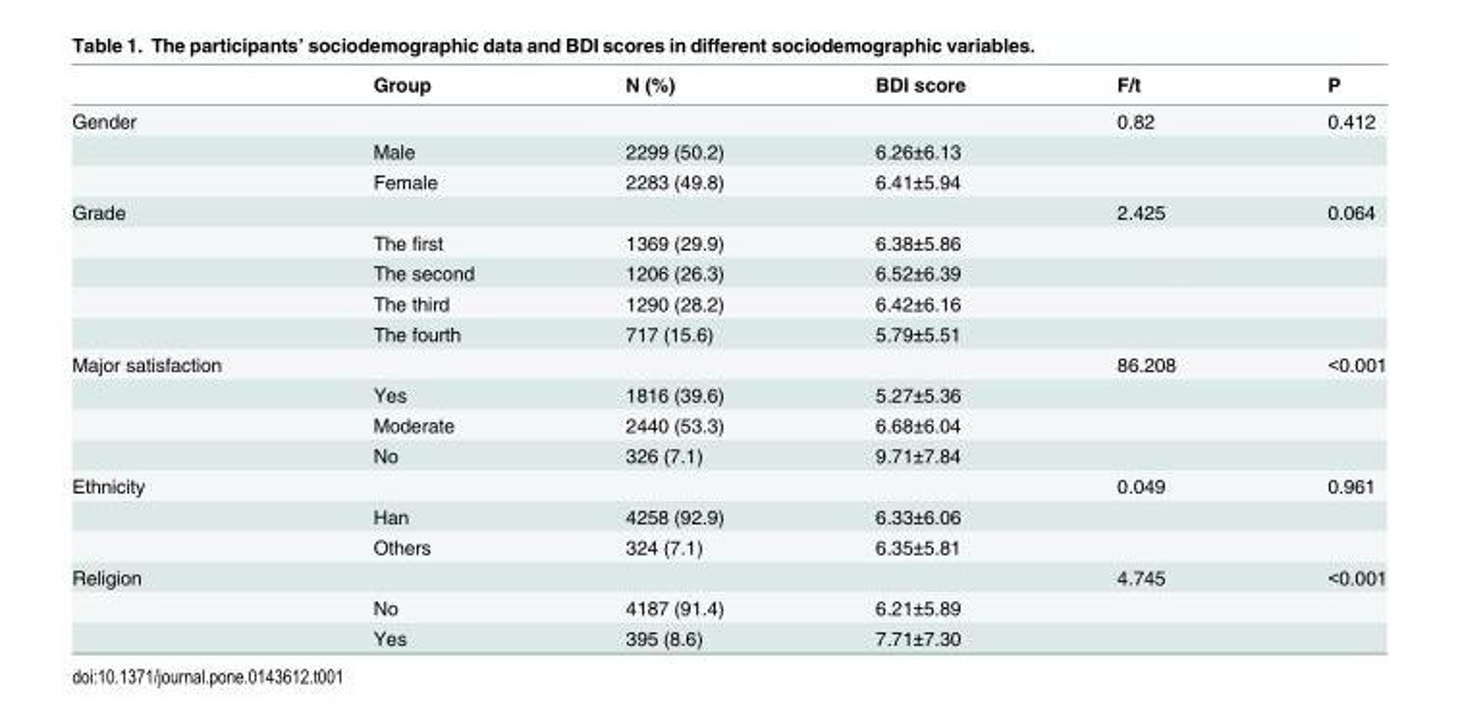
<table><thead><tr><td></td><td>Group</td><td>N (%)</td><td>BDI score</td><td>F/t</td><td>P</td></tr></thead><tbody><tr><td rowspan="3">Gender</td><td></td><td></td><td></td><td>0.82</td><td>0.412</td></tr><tr><td>Male</td><td>2299 (50.2)</td><td>6.26±6.13</td><td></td><td></td></tr><tr><td>Female</td><td>2283 (49.8)</td><td>6.41±5.94</td><td></td><td></td></tr><tr><td rowspan="5">Grade</td><td></td><td></td><td></td><td>2.425</td><td>0.064</td></tr><tr><td>The first</td><td>1369 (29.9)</td><td>6.38±5.86</td><td></td><td></td></tr><tr><td>The second</td><td>1206 (26.3)</td><td>6.52±6.39</td><td></td><td></td></tr><tr><td>The third</td><td>1290 (28.2)</td><td>6.42±6.16</td><td></td><td></td></tr><tr><td>The fourth</td><td>717 (15.6)</td><td>5.79±5.51</td><td></td><td></td></tr><tr><td rowspan="4">Major satisfaction</td><td></td><td></td><td></td><td>86.208</td><td>&lt;0.001</td></tr><tr><td>Yes</td><td>1816 (39.6)</td><td>5.27±5.36</td><td></td><td></td></tr><tr><td>Moderate</td><td>2440 (53.3)</td><td>6.68±6.04</td><td></td><td></td></tr><tr><td>No</td><td>326 (7.1)</td><td>9.71±7.84</td><td></td><td></td></tr><tr><td rowspan="3">Ethnicity</td><td></td><td></td><td></td><td>0.049</td><td>0.961</td></tr><tr><td>Han</td><td>4258 (92.9)</td><td>6.33±6.06</td><td></td><td></td></tr><tr><td>Others</td><td>324 (7.1)</td><td>6.35±5.81</td><td></td><td></td></tr><tr><td rowspan="3">Religion</td><td></td><td></td><td></td><td>4.745</td><td>&lt;0.001</td></tr><tr><td>No</td><td>4187 (91.4)</td><td>6.21±5.89</td><td></td><td></td></tr><tr><td>Yes</td><td>395 (8.6)</td><td>7.71±7.30</td><td></td><td></td></tr></tbody></table>